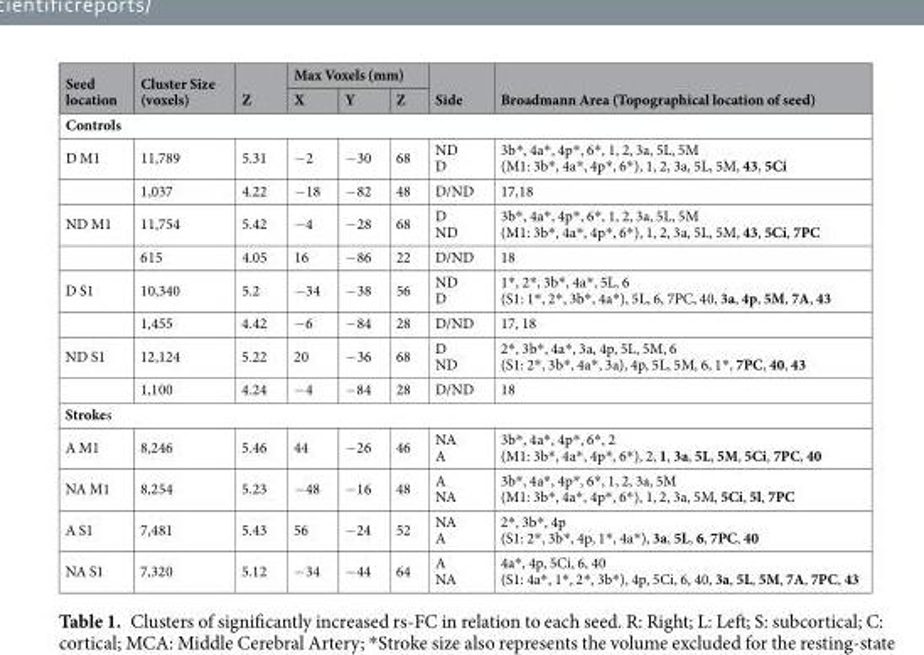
<table><thead><tr><td rowspan="2">Seed location</td><td rowspan="2">Cluster Size (voxels)</td><td rowspan="2">Z</td><td colspan="3">Max Voxels (mm)</td><td rowspan="2">Side</td><td rowspan="2">Broadmann Area (Topographical location of seed)</td></tr><tr><td>X</td><td>Y</td><td>Z</td></tr></thead><tbody><tr><td colspan="8">Controls</td></tr><tr><td rowspan="2">D M1</td><td>11,789</td><td>5.31</td><td>−2</td><td>−30</td><td>68</td><td>ND D</td><td>3b*, 4a*, 4p*, 6*, 1, 2, 3a, 5L, 5M (M1: 3b*, 4a*, 4p*, 6*), 1, 2, 3a, 5L, 5M, 43, 5Ci</td></tr><tr><td>1,037</td><td>4.22</td><td>−18</td><td>−82</td><td>48</td><td>D/ND</td><td>17,18</td></tr><tr><td rowspan="2">ND M1</td><td>11,754</td><td>5.42</td><td>−4</td><td>−28</td><td>68</td><td>D ND</td><td>3b*, 4a*, 4p*, 6*, 1, 2, 3a, 5L, 5M (M1: 3b*, 4a*, 4p*, 6*), 1, 2, 3a, 5L, 5M, 43, 5Ci, 7PC</td></tr><tr><td>615</td><td>4.05</td><td>16</td><td>−86</td><td>22</td><td>D/ND</td><td>18</td></tr><tr><td rowspan="2">D S1</td><td>10,340</td><td>5.2</td><td>−34</td><td>−38</td><td>56</td><td>ND D</td><td>1*, 2*, 3b*, 4a*, 5L, 6 (S1: 1*, 2*, 3b*, 4a*), 5L, 6, 7PC, 40, 3a, 4p, 5M, 7A, 43</td></tr><tr><td>1,455</td><td>4.42</td><td>−6</td><td>−84</td><td>28</td><td>D/ND</td><td>17, 18</td></tr><tr><td rowspan="2">ND S1</td><td>12,124</td><td>5.22</td><td>20</td><td>−36</td><td>68</td><td>D ND</td><td>2*, 3b*, 4a*, 3a, 4p, 5L, 5M, 6 (S1: 2*, 3b*, 4a*, 3a), 4p, 5L, 5M, 6, 1*, 7PC, 40, 43</td></tr><tr><td>1,100</td><td>4.24</td><td>−4</td><td>−84</td><td>28</td><td>D/ND</td><td>18</td></tr><tr><td colspan="8">Strokes</td></tr><tr><td>A M1</td><td>8,246</td><td>5.46</td><td>44</td><td>−26</td><td>46</td><td>NA A</td><td>3b*, 4a*, 4p*, 6*, 2 (M1: 3b*, 4a*, 4p*, 6*), 2, 1, 3a, 5L, 5M, 5Ci, 7PC, 40</td></tr><tr><td>NA M1</td><td>8,254</td><td>5.23</td><td>−48</td><td>−16</td><td>48</td><td>A NA</td><td>3b*, 4a*, 4p*, 6*, 1, 2, 3a, 5M (M1: 3b*, 4a*, 4p*, 6*), 1, 2, 3a, 5M, 5Ci, 5l, 7PC</td></tr><tr><td>A S1</td><td>7,481</td><td>5.43</td><td>56</td><td>−24</td><td>52</td><td>NA A</td><td>2*, 3b*, 4p (S1: 2*, 3b*, 4p, 1*, 4a*), 3a, 5L, 6, 7PC, 40</td></tr><tr><td>NA S1</td><td>7,320</td><td>5.12</td><td>−34</td><td>−44</td><td>64</td><td>A NA</td><td>4a*, 4p, 5Ci, 6, 40 (S1: 4a*, 1*, 2*, 3b*), 4p, 5Ci, 6, 40, 3a, 5L, 5M, 7A, 7PC, 43</td></tr></tbody></table>